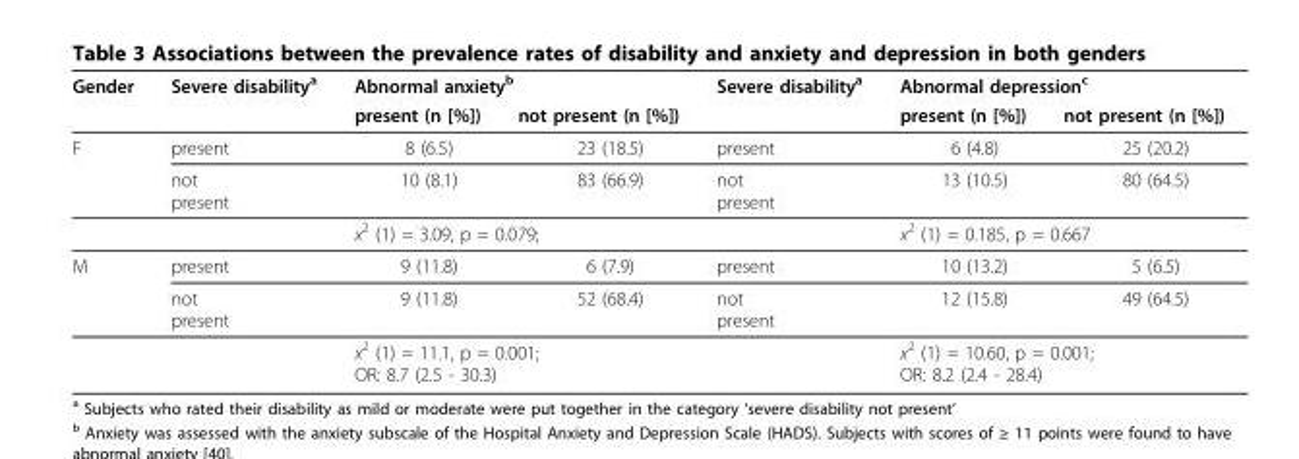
<table><thead><tr><td rowspan="2">Gender</td><td rowspan="2">Severe disability<sup>a</sup></td><td colspan="2">Abnormal anxiety<sup>b</sup></td><td rowspan="2">Severe disability<sup>a</sup></td><td colspan="2">Abnormal depression<sup>c</sup></td></tr><tr><td>present (n [%])</td><td>not present (n [%])</td><td>present (n [%])</td><td>not present (n [%])</td></tr></thead><tbody><tr><td rowspan="3">F</td><td>present</td><td>8 (6.5)</td><td>23 (18.5)</td><td>present</td><td>6 (4.8)</td><td>25 (20.2)</td></tr><tr><td>not present</td><td>10 (8.1)</td><td>83 (66.9)</td><td>not present</td><td>13 (10.5)</td><td>80 (64.5)</td></tr><tr><td></td><td colspan="2">x<sup>2</sup> (1) = 3.09, p = 0.079;</td><td></td><td colspan="2">x<sup>2</sup> (1) = 0.185, p = 0.667</td></tr><tr><td rowspan="3">M</td><td>present</td><td>9 (11.8)</td><td>6 (7.9)</td><td>present</td><td>10 (13.2)</td><td>5 (6.5)</td></tr><tr><td>not present</td><td>9 (11.8)</td><td>52 (68.4)</td><td>not present</td><td>12 (15.8)</td><td>49 (64.5)</td></tr><tr><td></td><td colspan="2">x<sup>2</sup> (1) = 11.1, p = 0.001; OR: 8.7 (2.5 - 30.3)</td><td></td><td colspan="2">x<sup>2</sup> (1) = 10.60, p = 0.001; OR: 8.2 (2.4 - 28.4)</td></tr></tbody></table>